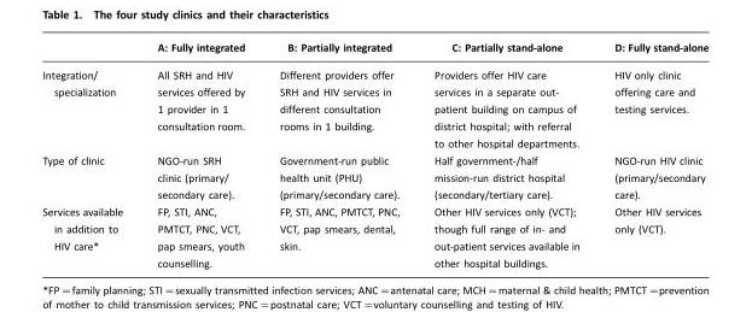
<table><thead><tr><td></td><td>A: Fully integrated</td><td>B: Partially integrated</td><td>C: Partially stand-alone</td><td>D: Fully stand-alone</td></tr></thead><tbody><tr><td>Integration/ specialization</td><td>All SRH and HIV services offered by 1 provider in 1 consultation room.</td><td>Different providers offer SRH and HIV services in different consultation rooms in 1 building.</td><td>Providers offer HIV care services in a separate out- patient building on campus of district hospital; with referral to other hospital departments.</td><td>HIV only clinic offering care and testing services.</td></tr><tr><td>Type of clinic</td><td>NGO-run SRH clinic (primary/ secondary care).</td><td>Government-run public health unit (PHU) (primary/secondary care).</td><td>Half government-/half mission-run district hospital (secondary/tertiary care).</td><td>NGO-run HIV clinic (primary/secondary care).</td></tr><tr><td>Services available in addition to HIV care*</td><td>FP, STI, ANC, PMTCT, PNC, VCT, pap smears, youth counselling.</td><td>FP, STI, ANC, PMTCT, PNC, VCT, pap smears, dental, skin.</td><td>Other HIV services only (VCT); though full range of in- and out-patient services available in other hospital buildings.</td><td>Other HIV services only (VCT).</td></tr></tbody></table>